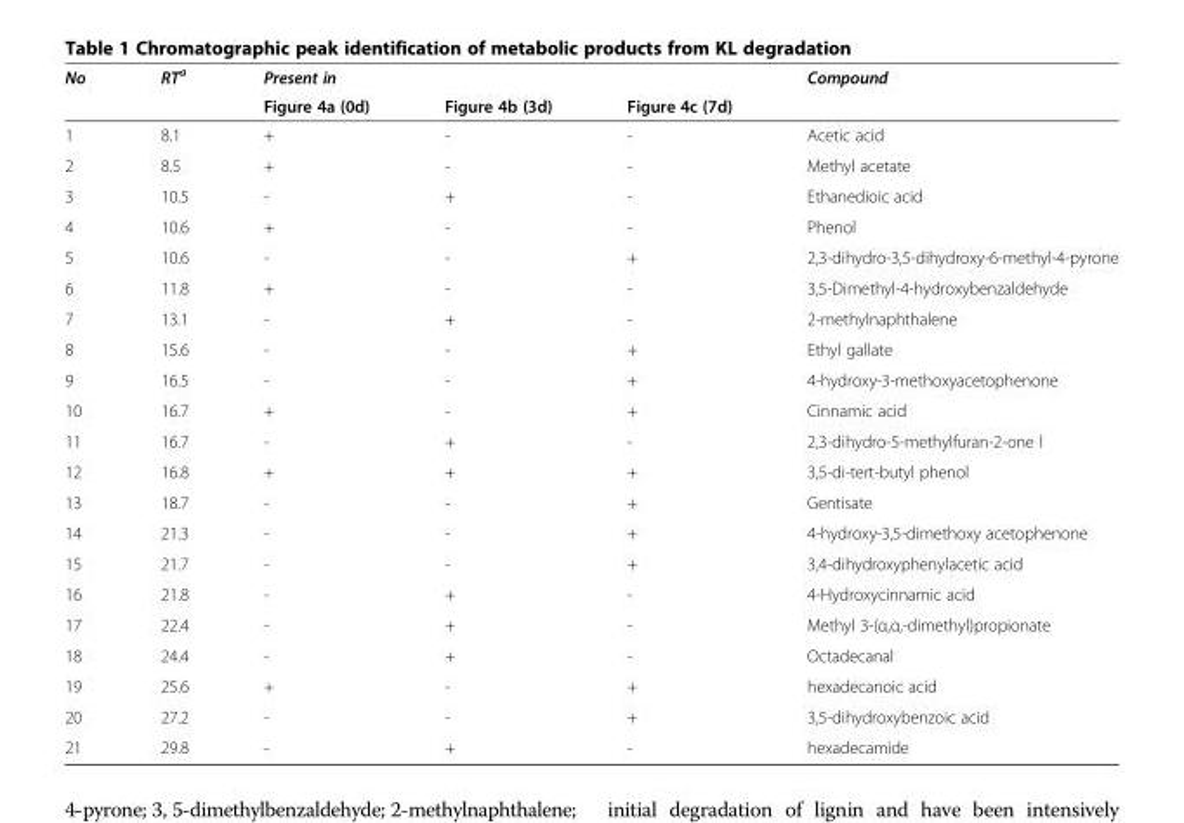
<table><thead><tr><td rowspan="2">No</td><td rowspan="2">RT<sup>a</sup></td><td colspan="3">Present in</td><td rowspan="2">Compound</td></tr><tr><td>Figure 4a (0d)</td><td>Figure 4b (3d)</td><td>Figure 4c (7d)</td></tr></thead><tbody><tr><td>1</td><td>8.1</td><td>+</td><td>-</td><td>-</td><td>Acetic acid</td></tr><tr><td>2</td><td>8.5</td><td>+</td><td>-</td><td>-</td><td>Methyl acetate</td></tr><tr><td>3</td><td>10.5</td><td>-</td><td>+</td><td>-</td><td>Ethanedioic acid</td></tr><tr><td>4</td><td>10.6</td><td>+</td><td>-</td><td>-</td><td>Phenol</td></tr><tr><td>5</td><td>10.6</td><td>-</td><td>-</td><td>+</td><td>2,3-dihydro-3,5-dihydroxy-6-methyl-4-pyrone</td></tr><tr><td>6</td><td>11.8</td><td>+</td><td>-</td><td>-</td><td>3,5-Dimethyl-4-hydroxybenzaldehyde</td></tr><tr><td>7</td><td>13.1</td><td>-</td><td>+</td><td>-</td><td>2-methylnaphthalene</td></tr><tr><td>8</td><td>15.6</td><td>-</td><td>-</td><td>+</td><td>Ethyl gallate</td></tr><tr><td>9</td><td>16.5</td><td>-</td><td>-</td><td>+</td><td>4-hydroxy-3-methoxyacetophenone</td></tr><tr><td>10</td><td>16.7</td><td>+</td><td>-</td><td>+</td><td>Cinnamic acid</td></tr><tr><td>11</td><td>16.7</td><td>-</td><td>+</td><td>-</td><td>2,3-dihydro-5-methylfuran-2-one l</td></tr><tr><td>12</td><td>16.8</td><td>+</td><td>+</td><td>+</td><td>3,5-di-tert-butyl phenol</td></tr><tr><td>13</td><td>18.7</td><td>-</td><td>-</td><td>+</td><td>Gentisate</td></tr><tr><td>14</td><td>21.3</td><td>-</td><td>-</td><td>+</td><td>4-hydroxy-3,5-dimethoxy acetophenone</td></tr><tr><td>15</td><td>21.7</td><td>-</td><td>-</td><td>+</td><td>3,4-dihydroxyphenylacetic acid</td></tr><tr><td>16</td><td>21.8</td><td>-</td><td>+</td><td>-</td><td>4-Hydroxycinnamic acid</td></tr><tr><td>17</td><td>22.4</td><td>-</td><td>+</td><td>-</td><td>Methyl 3-(α,α,-dimethyl)propionate</td></tr><tr><td>18</td><td>24.4</td><td>-</td><td>+</td><td>-</td><td>Octadecanal</td></tr><tr><td>19</td><td>25.6</td><td>+</td><td>-</td><td>+</td><td>hexadecanoic acid</td></tr><tr><td>20</td><td>27.2</td><td>-</td><td>-</td><td>+</td><td>3,5-dihydroxybenzoic acid</td></tr><tr><td>21</td><td>29.8</td><td>-</td><td>+</td><td>-</td><td>hexadecamide</td></tr></tbody></table>